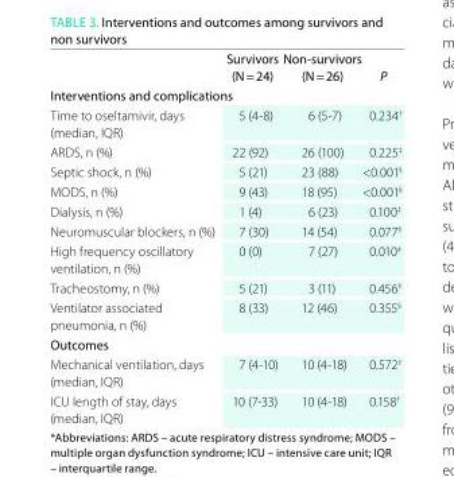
<table><thead><tr><td></td><td>Survivors (N = 24)</td><td>Non-survivors (N = 26)</td><td>P</td></tr></thead><tbody><tr><td colspan="4">interventions and complications</td></tr><tr><td>Time to oseltamivir, days (median, IQR)</td><td>5 (4-8)</td><td>6 (5-7)</td><td>0.234<sup>†</sup></td></tr><tr><td>ARDS, n (%)</td><td>22 (92)</td><td>26 (100)</td><td>0.225<sup>‡</sup></td></tr><tr><td>Septic shock, n (%)</td><td>5 (21)</td><td>23 (88)</td><td>&lt;0.001<sup>§</sup></td></tr><tr><td>MODS, n (%)</td><td>9 (43)</td><td>18 (95)</td><td>&lt;0.001<sup>§</sup></td></tr><tr><td>Dialysis, n (%)</td><td>1 (4)</td><td>6 (23)</td><td>0.100<sup>‡</sup></td></tr><tr><td>Neuromuscular blockers, n (%)</td><td>7 (30)</td><td>14 (54)</td><td>0.077<sup>§</sup></td></tr><tr><td>High frequency oscillatory ventilation, n (%)</td><td>0 (0)</td><td>7 (27)</td><td>0.010<sup>‡</sup></td></tr><tr><td>Tracheostomy, n (%)</td><td>5 (21)</td><td>3 (11)</td><td>0.456<sup>‡</sup></td></tr><tr><td>Ventilator associated pneumonia, n (%)</td><td>8 (33)</td><td>12 (46)</td><td>0.355<sup>§</sup></td></tr><tr><td colspan="4">outcomes</td></tr><tr><td>Mechanical ventilation, days (median, IQR)</td><td>7 (4-10)</td><td>10 (4-18)</td><td>0.572<sup>†</sup></td></tr><tr><td>ICU length of stay, days (median, IQR)</td><td>10 (7-33)</td><td>10 (4-18)</td><td>0.158<sup>†</sup></td></tr></tbody></table>